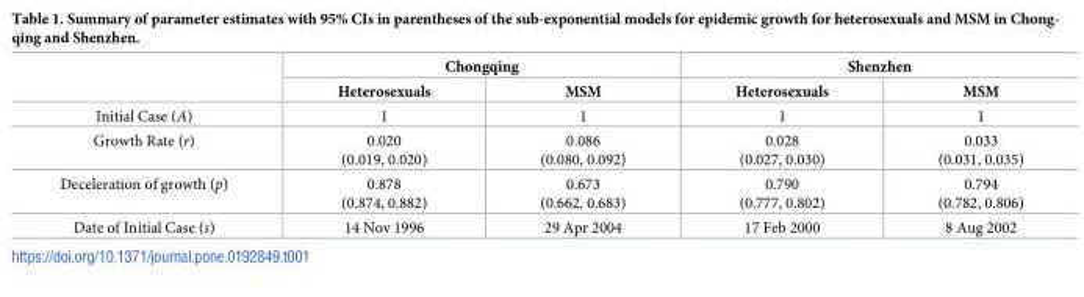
<table><thead><tr><td rowspan="2"></td><td colspan="2">Chongqing</td><td colspan="2">Shenzhen</td></tr><tr><td>Heterosexuals</td><td>MSM</td><td>Heterosexuals</td><td>MSM</td></tr></thead><tbody><tr><td>Initial Case (A)</td><td>1</td><td>1</td><td>1</td><td>1</td></tr><tr><td>Growth Rate (r)</td><td>0.020 (0.019, 0.020)</td><td>0.086 (0.080, 0.092)</td><td>0.028 (0.027, 0.030)</td><td>0.033 (0.031, 0.035)</td></tr><tr><td>Deceleration of growth (p)</td><td>0.878 (0.874, 0.882)</td><td>0.673 (0.662, 0.683)</td><td>0.790 (0.777, 0.802)</td><td>0.794 (0.782, 0.806)</td></tr><tr><td>Date of Initial Case (s)</td><td>14 Nov 1996</td><td>29 Apr 2004</td><td>17 Feb 2000</td><td>8 Aug 2002</td></tr></tbody></table>